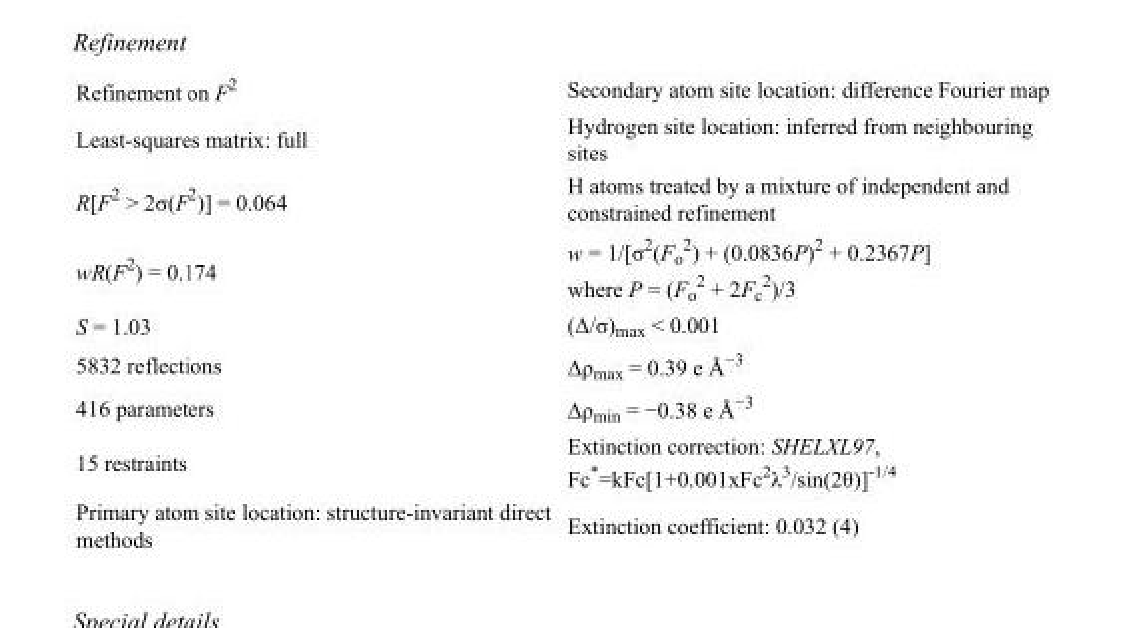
<table><tbody><tr><td>Refinement on F<sup>2</sup></td><td>Secondary atom site location: difference Fourier map</td></tr><tr><td>Least-squares matrix: full</td><td>Hydrogen site location: inferred from neighbouring sites</td></tr><tr><td>R[F<sup>2</sup> &gt; 2σ(F<sup>2</sup>)] = 0.064</td><td>H atoms treated by a mixture of independent and constrained refinement</td></tr><tr><td>wR(F<sup>2</sup>) = 0.174</td><td>w = 1/[σ<sup>2</sup>(F<sub>o</sub> <sup>2</sup>) + (0.0836P)<sup>2</sup> + 0.2367P] where P = (F<sub>o</sub> <sup>2</sup> + 2F<sub>c</sub> <sup>2</sup>)/3</td></tr><tr><td>S = 1.03</td><td>(Δ/σ)<sub>max</sub> &lt; 0.001</td></tr><tr><td>5832 reflections</td><td>Δρ<sub>max</sub> = 0.39 e Å<sup>−3</sup></td></tr><tr><td>416 parameters</td><td>Δρ<sub>min</sub> = −0.38 e Å<sup>−3</sup></td></tr><tr><td>15 restraints</td><td>Extinction correction: SHELXL97, Fc*=kFc[1+0.001xFc<sup>2</sup>λ<sup>3</sup>/sin(2θ)]<sup>-1/4</sup></td></tr><tr><td>Primary atom site location: structure-invariant direct methods</td><td>Extinction coefficient: 0.032 (4)</td></tr></tbody></table>